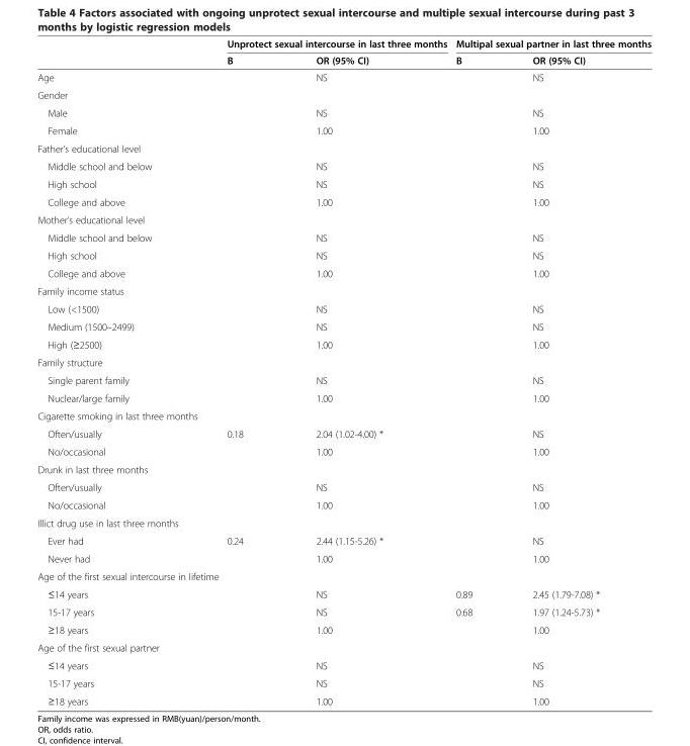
<table><thead><tr><td rowspan="2"></td><td colspan="2">Unprotect sexual intercourse in last three months</td><td colspan="2">Multipal sexual partner in last three months</td></tr><tr><td>B</td><td>OR (95% CI)</td><td>B</td><td>OR (95% CI)</td></tr></thead><tbody><tr><td>Age</td><td></td><td>NS</td><td></td><td>NS</td></tr><tr><td colspan="5">Gender</td></tr><tr><td>Male</td><td></td><td>NS</td><td></td><td>NS</td></tr><tr><td>Female</td><td></td><td>1.00</td><td></td><td>1.00</td></tr><tr><td colspan="5">Father’s educational level</td></tr><tr><td>Middle school and below</td><td></td><td>NS</td><td></td><td>NS</td></tr><tr><td>High school</td><td></td><td>NS</td><td></td><td>NS</td></tr><tr><td>College and above</td><td></td><td>1.00</td><td></td><td>1.00</td></tr><tr><td colspan="5">Mother’s educational level</td></tr><tr><td>Middle school and below</td><td></td><td>NS</td><td></td><td>NS</td></tr><tr><td>High school</td><td></td><td>NS</td><td></td><td>NS</td></tr><tr><td>College and above</td><td></td><td>1.00</td><td></td><td>1.00</td></tr><tr><td colspan="5">Family income status</td></tr><tr><td>Low (&lt;1500)</td><td></td><td>NS</td><td></td><td>NS</td></tr><tr><td>Medium (1500–2499)</td><td></td><td>NS</td><td></td><td>NS</td></tr><tr><td>High (≥2500)</td><td></td><td>1.00</td><td></td><td>1.00</td></tr><tr><td colspan="5">Family structure</td></tr><tr><td>Single parent family</td><td></td><td>NS</td><td></td><td>NS</td></tr><tr><td>Nuclear/large family</td><td></td><td>1.00</td><td></td><td>1.00</td></tr><tr><td colspan="5">Cigarette smoking in last three months</td></tr><tr><td>Often/usually</td><td>0.18</td><td>2.04 (1.02-4.00) *</td><td></td><td>NS</td></tr><tr><td>No/occasional</td><td></td><td>1.00</td><td></td><td>1.00</td></tr><tr><td colspan="5">Drunk in last three months</td></tr><tr><td>Often/usually</td><td></td><td>NS</td><td></td><td>NS</td></tr><tr><td>No/occasional</td><td></td><td>1.00</td><td></td><td>1.00</td></tr><tr><td colspan="5">Illict drug use in last three months</td></tr><tr><td>Ever had</td><td>0.24</td><td>2.44 (1.15-5.26) *</td><td></td><td>NS</td></tr><tr><td>Never had</td><td></td><td>1.00</td><td></td><td>1.00</td></tr><tr><td colspan="5">Age of the first sexual intercourse in lifetime</td></tr><tr><td>≤14 years</td><td></td><td>NS</td><td>0.89</td><td>2.45 (1.79-7.08) *</td></tr><tr><td>15-17 years</td><td></td><td>NS</td><td>0.68</td><td>1.97 (1.24-5.73) *</td></tr><tr><td>≥18 years</td><td></td><td>1.00</td><td></td><td>1.00</td></tr><tr><td colspan="5">Age of the first sexual partner</td></tr><tr><td>≤14 years</td><td></td><td>NS</td><td></td><td>NS</td></tr><tr><td>15-17 years</td><td></td><td>NS</td><td></td><td>NS</td></tr><tr><td>≥18 years</td><td></td><td>1.00</td><td></td><td>1.00</td></tr></tbody></table>